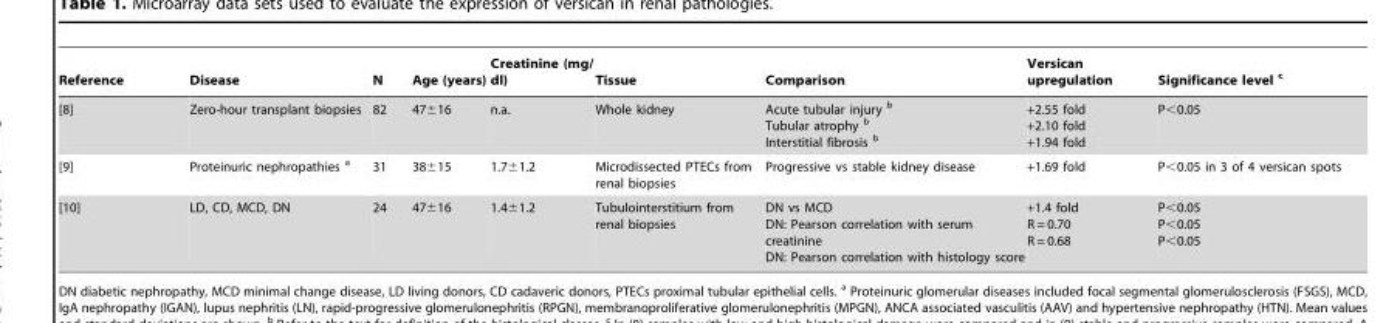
<table><thead><tr><td>Reference</td><td>Disease</td><td>N</td><td>Age (years)</td><td>Creatinine (mg/ dl)</td><td>Tissue</td><td>Comparison</td><td>Versican upregulation</td><td>Significance level <sup>c</sup></td></tr></thead><tbody><tr><td>[8]</td><td>Zero-hour transplant biopsies</td><td>82</td><td>47±16</td><td>n.a.</td><td>Whole kidney</td><td>Acute tubular injury <sup>b</sup> Tubular atrophy <sup>b</sup> Interstitial fibrosis <sup>b</sup></td><td>+2.55 fold +2.10 fold +1.94 fold</td><td>P&lt;0.05</td></tr><tr><td>[9]</td><td>Proteinuric nephropathies <sup>a</sup></td><td>31</td><td>38±15</td><td>1.7±1.2</td><td>Microdissected PTECs from renal biopsies</td><td>Progressive vs stable kidney disease</td><td>+1.69 fold</td><td>P&lt;0.05 in 3 of 4 versican spots</td></tr><tr><td>[10]</td><td>LD, CD, MCD, DN</td><td>24</td><td>47±16</td><td>1.4±1.2</td><td>Tubulointerstitium from renal biopsies</td><td>DN vs MCD DN: Pearson correlation with serum creatinine DN: Pearson correlation with histology score</td><td>+1.4 fold R = 0.70 R = 0.68</td><td>P&lt;0.05 P&lt;0.05 P&lt;0.05</td></tr></tbody></table>